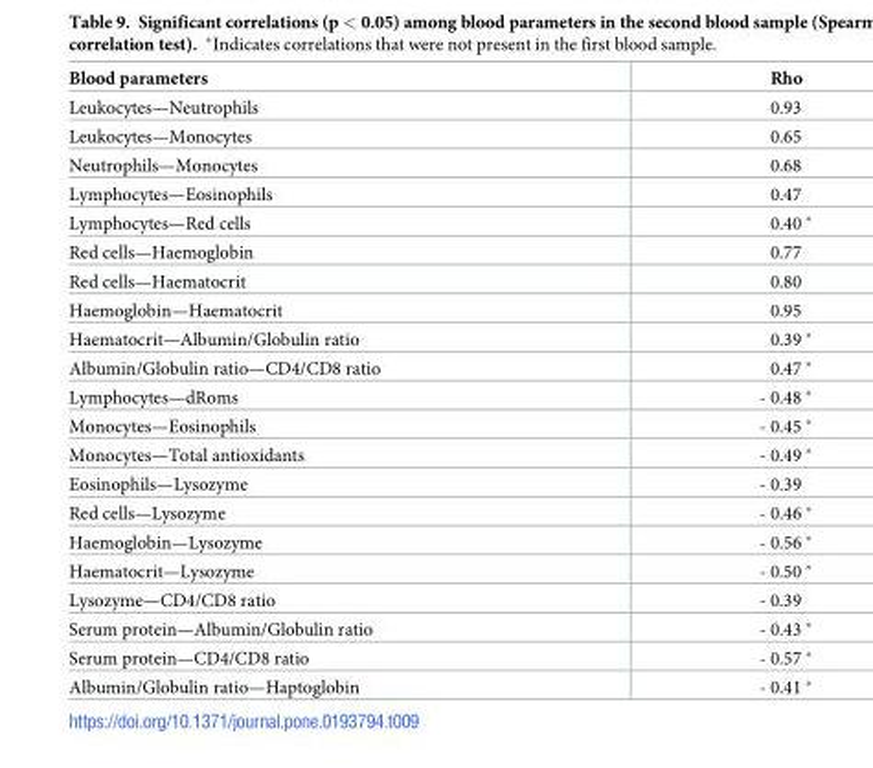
<table><thead><tr><td>Blood parameters</td><td>Rho</td></tr></thead><tbody><tr><td>Leukocytes—Neutrophils</td><td>0.93</td></tr><tr><td>Leukocytes—Monocytes</td><td>0.65</td></tr><tr><td>Neutrophils—Monocytes</td><td>0.68</td></tr><tr><td>Lymphocytes—Eosinophils</td><td>0.47</td></tr><tr><td>Lymphocytes—Red cells</td><td>0.40</td></tr><tr><td>Red cells—Haemoglobin</td><td>0.77</td></tr><tr><td>Red cells—Haematocrit</td><td>0.80</td></tr><tr><td>Haemoglobin—Haematocrit</td><td>0.95</td></tr><tr><td>Haematocrit—Albumin/Globulin ratio</td><td>0.39</td></tr><tr><td>Albumin/Globulin ratio—CD4/CD8 ratio</td><td>0.47</td></tr><tr><td>Lymphocytes—dRoms</td><td>- 0.48</td></tr><tr><td>Monocytes—Eosinophils</td><td>- 0.45</td></tr><tr><td>Monocytes—Total antioxidants</td><td>- 0.49</td></tr><tr><td>Eosinophils—Lysozyme</td><td>- 0.39</td></tr><tr><td>Red cells—Lysozyme</td><td>- 0.46</td></tr><tr><td>Haemoglobin—Lysozyme</td><td>- 0.56</td></tr><tr><td>Haematocrit—Lysozyme</td><td>- 0.50</td></tr><tr><td>Lysozyme—CD4/CD8 ratio</td><td>- 0.39</td></tr><tr><td>Serum protein—Albumin/Globulin ratio</td><td>- 0.43</td></tr><tr><td>Serum protein—CD4/CD8 ratio</td><td>- 0.57</td></tr><tr><td>Albumin/Globulin ratio—Haptoglobin</td><td>- 0.41</td></tr></tbody></table>